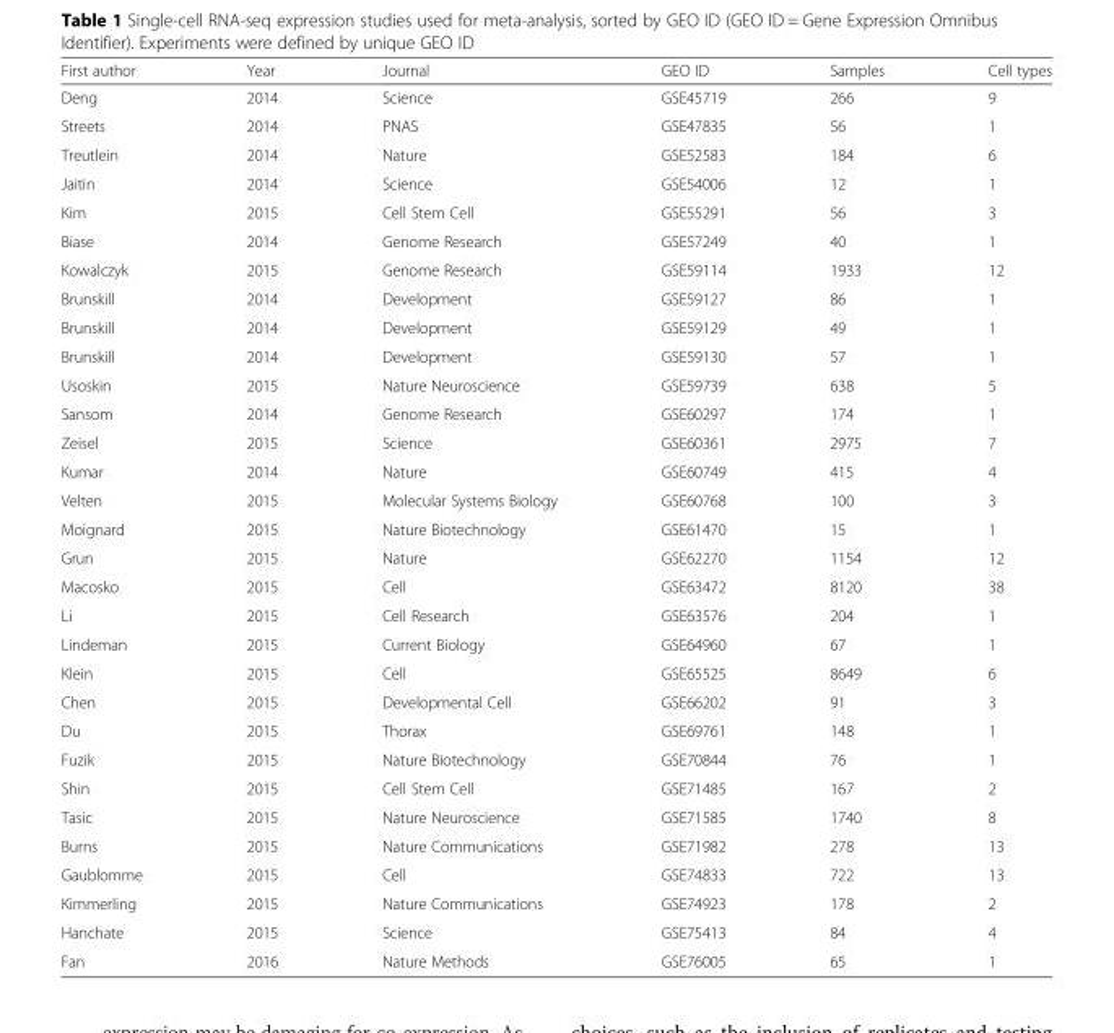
<table><thead><tr><td>First author</td><td>Year</td><td>Journal</td><td>GEO ID</td><td>Samples</td><td>Cell types</td></tr></thead><tbody><tr><td>Deng</td><td>2014</td><td>Science</td><td>GSE45719</td><td>266</td><td>9</td></tr><tr><td>Streets</td><td>2014</td><td>PNAS</td><td>GSE47835</td><td>56</td><td>1</td></tr><tr><td>Treutlein</td><td>2014</td><td>Nature</td><td>GSE52583</td><td>184</td><td>6</td></tr><tr><td>Jaitin</td><td>2014</td><td>Science</td><td>GSE54006</td><td>12</td><td>1</td></tr><tr><td>Kim</td><td>2015</td><td>Cell Stem Cell</td><td>GSE55291</td><td>56</td><td>3</td></tr><tr><td>Biase</td><td>2014</td><td>Genome Research</td><td>GSE57249</td><td>40</td><td>1</td></tr><tr><td>Kowalczyk</td><td>2015</td><td>Genome Research</td><td>GSE59114</td><td>1933</td><td>12</td></tr><tr><td>Brunskill</td><td>2014</td><td>Development</td><td>GSE59127</td><td>86</td><td>1</td></tr><tr><td>Brunskill</td><td>2014</td><td>Development</td><td>GSE59129</td><td>49</td><td>1</td></tr><tr><td>Brunskill</td><td>2014</td><td>Development</td><td>GSE59130</td><td>57</td><td>1</td></tr><tr><td>Usoskin</td><td>2015</td><td>Nature Neuroscience</td><td>GSE59739</td><td>638</td><td>5</td></tr><tr><td>Sansom</td><td>2014</td><td>Genome Research</td><td>GSE60297</td><td>174</td><td>1</td></tr><tr><td>Zeisel</td><td>2015</td><td>Science</td><td>GSE60361</td><td>2975</td><td>7</td></tr><tr><td>Kumar</td><td>2014</td><td>Nature</td><td>GSE60749</td><td>415</td><td>4</td></tr><tr><td>Velten</td><td>2015</td><td>Molecular Systems Biology</td><td>GSE60768</td><td>100</td><td>3</td></tr><tr><td>Moignard</td><td>2015</td><td>Nature Biotechnology</td><td>GSE61470</td><td>15</td><td>1</td></tr><tr><td>Grun</td><td>2015</td><td>Nature</td><td>GSE62270</td><td>1154</td><td>12</td></tr><tr><td>Macosko</td><td>2015</td><td>Cell</td><td>GSE63472</td><td>8120</td><td>38</td></tr><tr><td>Li</td><td>2015</td><td>Cell Research</td><td>GSE63576</td><td>204</td><td>1</td></tr><tr><td>Lindeman</td><td>2015</td><td>Current Biology</td><td>GSE64960</td><td>67</td><td>1</td></tr><tr><td>Klein</td><td>2015</td><td>Cell</td><td>GSE65525</td><td>8649</td><td>6</td></tr><tr><td>Chen</td><td>2015</td><td>Developmental Cell</td><td>GSE66202</td><td>91</td><td>3</td></tr><tr><td>Du</td><td>2015</td><td>Thorax</td><td>GSE69761</td><td>148</td><td>1</td></tr><tr><td>Fuzik</td><td>2015</td><td>Nature Biotechnology</td><td>GSE70844</td><td>76</td><td>1</td></tr><tr><td>Shin</td><td>2015</td><td>Cell Stem Cell</td><td>GSE71485</td><td>167</td><td>2</td></tr><tr><td>Tasic</td><td>2015</td><td>Nature Neuroscience</td><td>GSE71585</td><td>1740</td><td>8</td></tr><tr><td>Burns</td><td>2015</td><td>Nature Communications</td><td>GSE71982</td><td>278</td><td>13</td></tr><tr><td>Gaublomme</td><td>2015</td><td>Cell</td><td>GSE74833</td><td>722</td><td>13</td></tr><tr><td>Kimmerling</td><td>2015</td><td>Nature Communications</td><td>GSE74923</td><td>178</td><td>2</td></tr><tr><td>Hanchate</td><td>2015</td><td>Science</td><td>GSE75413</td><td>84</td><td>4</td></tr><tr><td>Fan</td><td>2016</td><td>Nature Methods</td><td>GSE76005</td><td>65</td><td>1</td></tr></tbody></table>